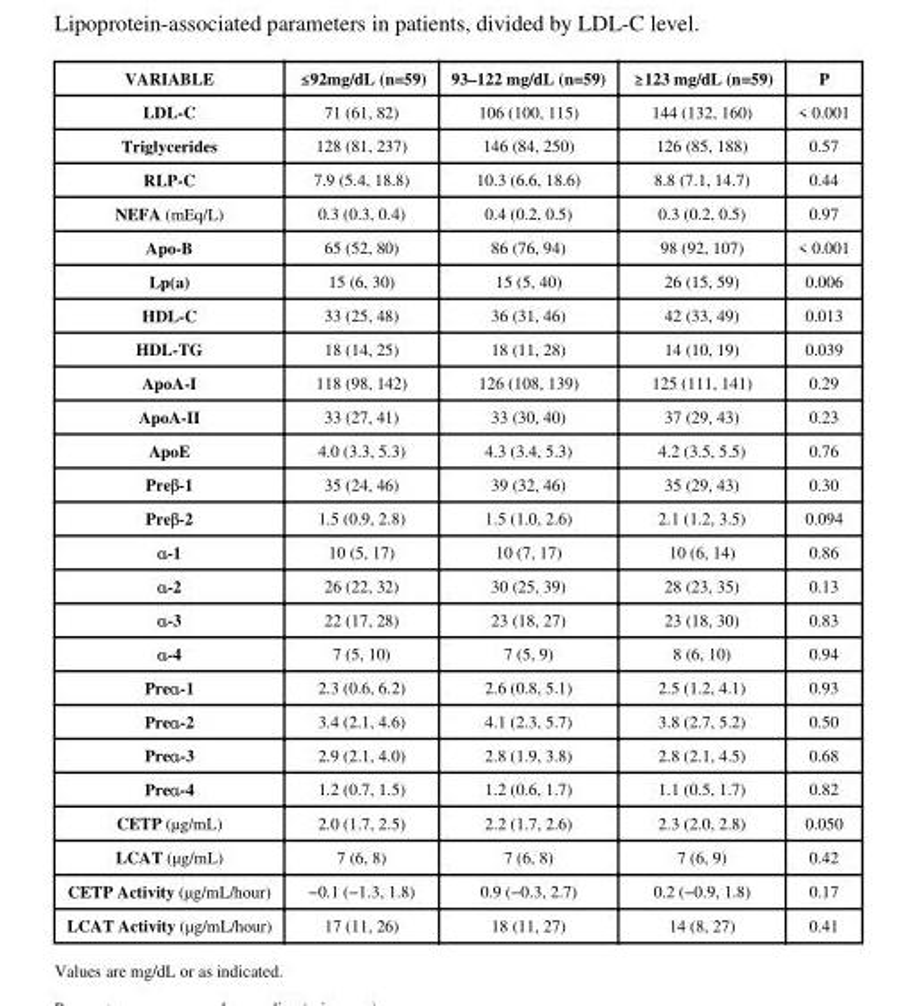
<table><thead><tr><td>VARIABLE</td><td>≤ 92mg/dL (n=59)</td><td>93–122 mg/dL (n=59)</td><td>≥ 123 mg/dL (n=59)</td><td>P</td></tr></thead><tbody><tr><td>LDL-C</td><td>71 (61, 82)</td><td>106 (100, 115)</td><td>144 (132, 160)</td><td>&lt; 0.001</td></tr><tr><td>Triglycerides</td><td>128 (81, 237)</td><td>146 (84, 250)</td><td>126 (85, 188)</td><td>0.57</td></tr><tr><td>RLP-C</td><td>7.9 (5.4, 18.8)</td><td>10.3 (6.6, 18.6)</td><td>8.8 (7.1, 14.7)</td><td>0.44</td></tr><tr><td>NEFA (mEq/L)</td><td>0.3 (0.3, 0.4)</td><td>0.4 (0.2, 0.5)</td><td>0.3 (0.2, 0.5)</td><td>0.97</td></tr><tr><td>Apo-B</td><td>65 (52, 80)</td><td>86 (76, 94)</td><td>98 (92, 107)</td><td>&lt; 0.001</td></tr><tr><td>Lp(a)</td><td>15 (6, 30)</td><td>15 (5, 40)</td><td>26 (15, 59)</td><td>0.006</td></tr><tr><td>HDL-C</td><td>33 (25, 48)</td><td>36 (31, 46)</td><td>42 (33, 49)</td><td>0.013</td></tr><tr><td>HDL-TG</td><td>18 (14, 25)</td><td>18 (11, 28)</td><td>14 (10, 19)</td><td>0.039</td></tr><tr><td>ApoA-I</td><td>118 (98, 142)</td><td>126 (108, 139)</td><td>125 (111, 141)</td><td>0.29</td></tr><tr><td>ApoA-II</td><td>33 (27, 41)</td><td>33 (30, 40)</td><td>37 (29, 43)</td><td>0.23</td></tr><tr><td>ApoE</td><td>4.0 (3.3, 5.3)</td><td>4.3 (3.4, 5.3)</td><td>4.2 (3.5, 5.5)</td><td>0.76</td></tr><tr><td>Preβ-1</td><td>35 (24, 46)</td><td>39 (32, 46)</td><td>35 (29, 43)</td><td>0.30</td></tr><tr><td>Preβ-2</td><td>1.5 (0.9, 2.8)</td><td>1.5 (1.0, 2.6)</td><td>2.1 (1.2, 3.5)</td><td>0.094</td></tr><tr><td>α-1</td><td>10 (5, 17)</td><td>10 (7, 17)</td><td>10 (6, 14)</td><td>0.86</td></tr><tr><td>α-2</td><td>26 (22, 32)</td><td>30 (25, 39)</td><td>28 (23, 35)</td><td>0.13</td></tr><tr><td>α-3</td><td>22 (17, 28)</td><td>23 (18, 27)</td><td>23 (18, 30)</td><td>0.83</td></tr><tr><td>α-4</td><td>7 (5, 10)</td><td>7 (5, 9)</td><td>8 (6, 10)</td><td>0.94</td></tr><tr><td>Preα-1</td><td>2.3 (0.6, 6.2)</td><td>2.6 (0.8, 5.1)</td><td>2.5 (1.2, 4.1)</td><td>0.93</td></tr><tr><td>Preα-2</td><td>3.4 (2.1, 4.6)</td><td>4.1 (2.3, 5.7)</td><td>3.8 (2.7, 5.2)</td><td>0.50</td></tr><tr><td>Preα-3</td><td>2.9 (2.1, 4.0)</td><td>2.8 (1.9, 3.8)</td><td>2.8 (2.1, 4.5)</td><td>0.68</td></tr><tr><td>Preα-4</td><td>1.2 (0.7, 1.5)</td><td>1.2 (0.6, 1.7)</td><td>1.1 (0.5, 1.7)</td><td>0.82</td></tr><tr><td>CETP (μg/mL)</td><td>2.0 (1.7, 2.5)</td><td>2.2 (1.7, 2.6)</td><td>2.3 (2.0, 2.8)</td><td>0.050</td></tr><tr><td>LCAT (μg/mL)</td><td>7 (6, 8)</td><td>7 (6, 8)</td><td>7 (6, 9)</td><td>0.42</td></tr><tr><td>CETP Activity (μg/mL/hour)</td><td>−0.1 (−1.3, 1.8)</td><td>0.9 (−0.3, 2.7)</td><td>0.2 (−0.9, 1.8)</td><td>0.17</td></tr><tr><td>LCAT Activity (μg/mL/hour)</td><td>17 (11, 26)</td><td>18 (11, 27)</td><td>14 (8, 27)</td><td>0.41</td></tr></tbody></table>